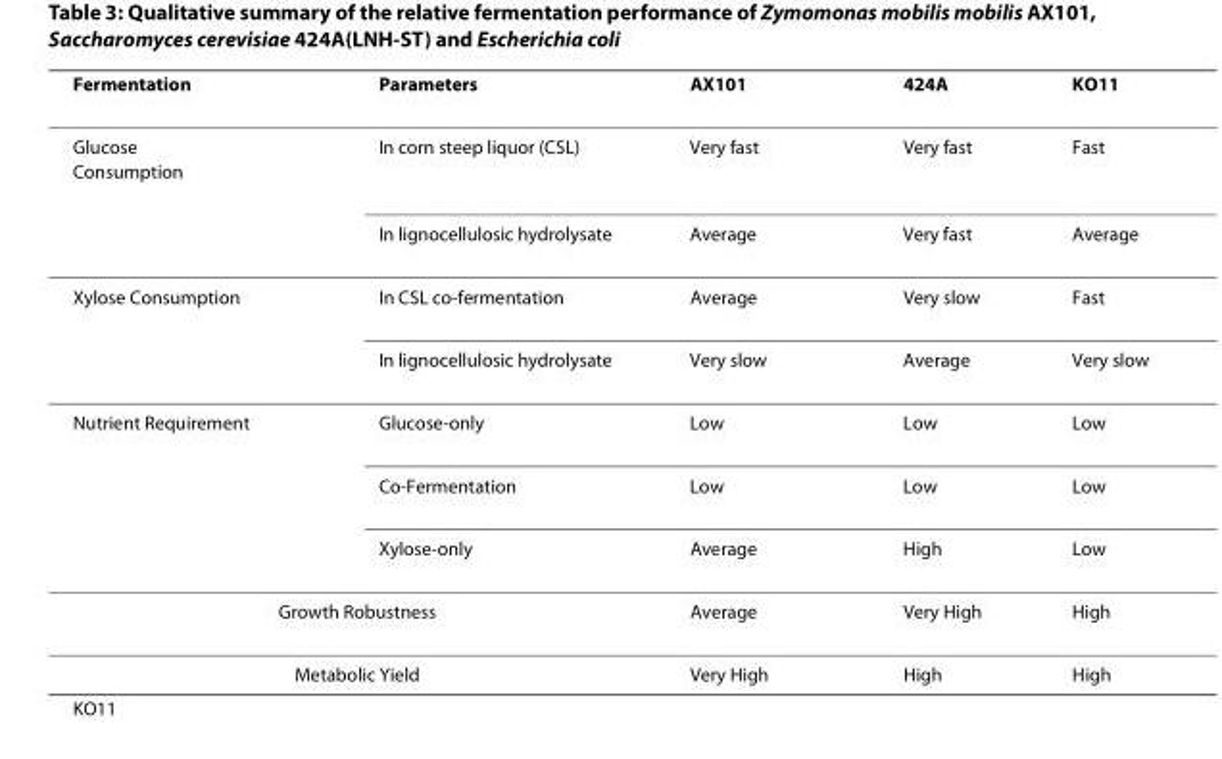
<table><thead><tr><td>Fermentation</td><td>Parameters</td><td>AX101</td><td>424A</td><td>KO11</td></tr></thead><tbody><tr><td rowspan="2">Glucose Consumption</td><td>In corn steep liquor (CSL)</td><td>Very fast</td><td>Very fast</td><td>Fast</td></tr><tr><td>In lignocellulosic hydrolysate</td><td>Average</td><td>Very fast</td><td>Average</td></tr><tr><td rowspan="2">Xylose Consumption</td><td>In CSL co-fermentation</td><td>Average</td><td>Very slow</td><td>Fast</td></tr><tr><td>In lignocellulosic hydrolysate</td><td>Very slow</td><td>Average</td><td>Very slow</td></tr><tr><td rowspan="3">Nutrient Requirement</td><td>Glucose-only</td><td>Low</td><td>Low</td><td>Low</td></tr><tr><td>Co-Fermentation</td><td>Low</td><td>Low</td><td>Low</td></tr><tr><td>Xylose-only</td><td>Average</td><td>High</td><td>Low</td></tr><tr><td colspan="2">Growth Robustness</td><td>Average</td><td>Very High</td><td>High</td></tr><tr><td colspan="2">Metabolic Yield</td><td>Very High</td><td>High</td><td>High</td></tr></tbody></table>